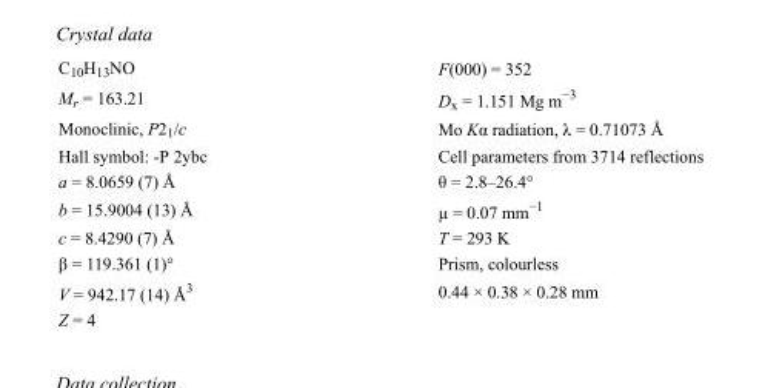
<table><tbody><tr><td>C<sub>10</sub>H<sub>13</sub>NO</td><td>F(000) = 352</td></tr><tr><td>M<sub>r</sub> = 163.21</td><td>D<sub>x</sub> = 1.151 Mg m<sup>−3</sup></td></tr><tr><td>Monoclinic, P2<sub>1</sub>/c</td><td>Mo Kα radiation, λ = 0.71073 Å</td></tr><tr><td>Hall symbol: -P 2ybc</td><td>Cell parameters from 3714 reflections</td></tr><tr><td>a = 8.0659 (7) Å</td><td>θ = 2.8–26.4°</td></tr><tr><td>b = 15.9004 (13) Å</td><td>µ = 0.07 mm<sup>−1</sup></td></tr><tr><td>c = 8.4290 (7) Å</td><td>T = 293 K</td></tr><tr><td>β = 119.361 (1)°</td><td>Prism, colourless</td></tr><tr><td>V = 942.17 (14) Å<sup>3</sup></td><td>0.44 × 0.38 × 0.28 mm</td></tr><tr><td>Z = 4</td><td></td></tr></tbody></table>